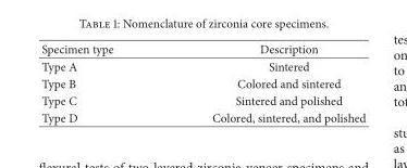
<table><thead><tr><td>Specimen type</td><td>Description</td></tr></thead><tbody><tr><td>Type A</td><td>Sintered</td></tr><tr><td>Type B</td><td>Colored and sintered</td></tr><tr><td>Type C</td><td>Sintered and polished</td></tr><tr><td>Type D</td><td>Colored, sintered, and polished</td></tr></tbody></table>